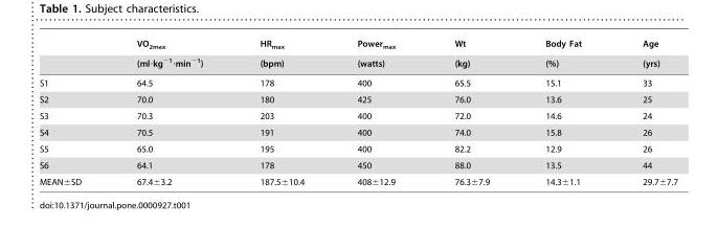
<table><thead><tr><td rowspan="2"></td><td rowspan="2">VO<sub>2max</sub> (ml·kg<sup>−1</sup>·min<sup>−1</sup>)</td><td rowspan="2">HR<sub>max</sub> (bpm)</td><td rowspan="2">Power<sub>max</sub> (watts)</td><td rowspan="2">Wt (kg)</td><td rowspan="2">Body Fat (%)</td><td rowspan="2">Age (yrs)</td></tr><tr></tr></thead><tbody><tr><td>S1</td><td>64.5</td><td>178</td><td>400</td><td>65.5</td><td>15.1</td><td>33</td></tr><tr><td>S2</td><td>70.0</td><td>180</td><td>425</td><td>76.0</td><td>13.6</td><td>25</td></tr><tr><td>S3</td><td>70.3</td><td>203</td><td>400</td><td>72.0</td><td>14.6</td><td>24</td></tr><tr><td>S4</td><td>70.5</td><td>191</td><td>400</td><td>74.0</td><td>15.8</td><td>26</td></tr><tr><td>S5</td><td>65.0</td><td>195</td><td>400</td><td>82.2</td><td>12.9</td><td>26</td></tr><tr><td>S6</td><td>64.1</td><td>178</td><td>450</td><td>88.0</td><td>13.5</td><td>44</td></tr><tr><td>MEAN±SD</td><td>67.4±3.2</td><td>187.5±10.4</td><td>408±12.9</td><td>76.3±7.9</td><td>14.3±1.1</td><td>29.7±7.7</td></tr></tbody></table>